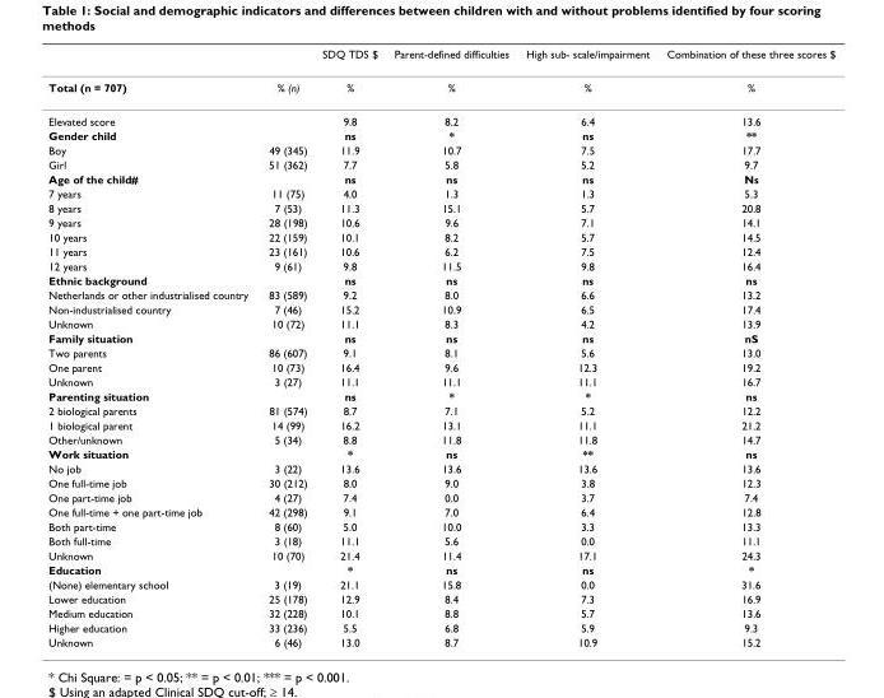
<table><thead><tr><td></td><td></td><td>SDQ TDS $</td><td>Parent-defined difficulties</td><td>High sub- scale/impairment</td><td>Combination of these three scores $</td></tr></thead><tbody><tr><td>Total (n = 707)</td><td>% (n)</td><td>%</td><td>%</td><td>%</td><td>%</td></tr><tr><td>Elevated score</td><td></td><td>9.8</td><td>8.2</td><td>6.4</td><td>13.6</td></tr><tr><td>Gender child</td><td></td><td>ns</td><td>*</td><td>ns</td><td>**</td></tr><tr><td>Boy</td><td>49 (345)</td><td>11.9</td><td>10.7</td><td>7.5</td><td>17.7</td></tr><tr><td>Girl</td><td>51 (362)</td><td>7.7</td><td>5.8</td><td>5.2</td><td>9.7</td></tr><tr><td>Age of the child#</td><td></td><td>ns</td><td>ns</td><td>ns</td><td>Ns</td></tr><tr><td>7 years</td><td>11 (75)</td><td>4.0</td><td>1.3</td><td>1.3</td><td>5.3</td></tr><tr><td>8 years</td><td>7 (53)</td><td>11.3</td><td>15.1</td><td>5.7</td><td>20.8</td></tr><tr><td>9 years</td><td>28 (198)</td><td>10.6</td><td>9.6</td><td>7.1</td><td>14.1</td></tr><tr><td>10 years</td><td>22 (159)</td><td>10.1</td><td>8.2</td><td>5.7</td><td>14.5</td></tr><tr><td>11 years</td><td>23 (161)</td><td>10.6</td><td>6.2</td><td>7.5</td><td>12.4</td></tr><tr><td>12 years</td><td>9 (61)</td><td>9.8</td><td>11.5</td><td>9.8</td><td>16.4</td></tr><tr><td>Ethnic background</td><td></td><td>ns</td><td>ns</td><td>ns</td><td>ns</td></tr><tr><td>Netherlands or other industrialised country</td><td>83 (589)</td><td>9.2</td><td>8.0</td><td>6.6</td><td>13.2</td></tr><tr><td>Non-industrialised country</td><td>7 (46)</td><td>15.2</td><td>10.9</td><td>6.5</td><td>17.4</td></tr><tr><td>Unknown</td><td>10 (72)</td><td>11.1</td><td>8.3</td><td>4.2</td><td>13.9</td></tr><tr><td>Family situation</td><td></td><td>ns</td><td>ns</td><td>ns</td><td>nS</td></tr><tr><td>Two parents</td><td>86 (607)</td><td>9.1</td><td>8.1</td><td>5.6</td><td>13.0</td></tr><tr><td>One parent</td><td>10 (73)</td><td>16.4</td><td>9.6</td><td>12.3</td><td>19.2</td></tr><tr><td>Unknown</td><td>3 (27)</td><td>11.1</td><td>11.1</td><td>11.1</td><td>16.7</td></tr><tr><td>Parenting situation</td><td></td><td>ns</td><td>*</td><td>*</td><td>ns</td></tr><tr><td>2 biological parents</td><td>81 (574)</td><td>8.7</td><td>7.1</td><td>5.2</td><td>12.2</td></tr><tr><td>1 biological parent</td><td>14 (99)</td><td>16.2</td><td>13.1</td><td>11.1</td><td>21.2</td></tr><tr><td>Other/unknown</td><td>5 (34)</td><td>8.8</td><td>11.8</td><td>11.8</td><td>14.7</td></tr><tr><td>Work situation</td><td></td><td>*</td><td>ns</td><td>**</td><td>ns</td></tr><tr><td>No job</td><td>3 (22)</td><td>13.6</td><td>13.6</td><td>13.6</td><td>13.6</td></tr><tr><td>One full-time job</td><td>30 (212)</td><td>8.0</td><td>9.0</td><td>3.8</td><td>12.3</td></tr><tr><td>One part-time job</td><td>4 (27)</td><td>7.4</td><td>0.0</td><td>3.7</td><td>7.4</td></tr><tr><td>One full-time + one part-time job</td><td>42 (298)</td><td>9.1</td><td>7.0</td><td>6.4</td><td>12.8</td></tr><tr><td>Both part-time</td><td>8 (60)</td><td>5.0</td><td>10.0</td><td>3.3</td><td>13.3</td></tr><tr><td>Both full-time</td><td>3 (18)</td><td>11.1</td><td>5.6</td><td>0.0</td><td>11.1</td></tr><tr><td>Unknown</td><td>10 (70)</td><td>21.4</td><td>11.4</td><td>17.1</td><td>24.3</td></tr><tr><td>Education</td><td></td><td>*</td><td>ns</td><td>ns</td><td>*</td></tr><tr><td>(None) elementary school</td><td>3 (19)</td><td>21.1</td><td>15.8</td><td>0.0</td><td>31.6</td></tr><tr><td>Lower education</td><td>25 (178)</td><td>12.9</td><td>8.4</td><td>7.3</td><td>16.9</td></tr><tr><td>Medium education</td><td>32 (228)</td><td>10.1</td><td>8.8</td><td>5.7</td><td>13.6</td></tr><tr><td>Higher education</td><td>33 (236)</td><td>5.5</td><td>6.8</td><td>5.9</td><td>9.3</td></tr><tr><td>Unknown</td><td>6 (46)</td><td>13.0</td><td>8.7</td><td>10.9</td><td>15.2</td></tr></tbody></table>